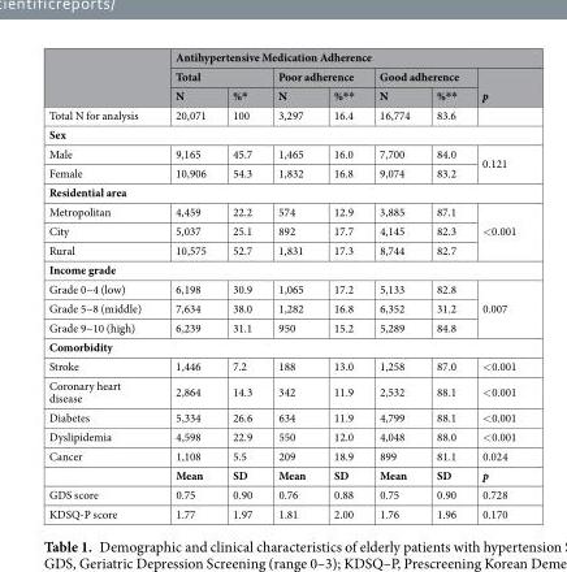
<table><thead><tr><td rowspan="3"></td><td colspan="7">Antihypertensive Medication Adherence</td></tr><tr><td colspan="2">Total</td><td colspan="2">Poor adherence</td><td colspan="2">Good adherence</td><td rowspan="2">p</td></tr><tr><td>N</td><td>%*</td><td>N</td><td>%**</td><td>N</td><td>%**</td></tr></thead><tbody><tr><td>Total N for analysis</td><td>20,071</td><td>100</td><td>3,297</td><td>16.4</td><td>16,774</td><td>83.6</td><td></td></tr><tr><td colspan="8">Sex</td></tr><tr><td>Male</td><td>9,165</td><td>45.7</td><td>1,465</td><td>16.0</td><td>7,700</td><td>84.0</td><td rowspan="2">0.121</td></tr><tr><td>Female</td><td>10,906</td><td>54.3</td><td>1,832</td><td>16.8</td><td>9,074</td><td>83.2</td></tr><tr><td colspan="8">Residential area</td></tr><tr><td>Metropolitan</td><td>4,459</td><td>22.2</td><td>574</td><td>12.9</td><td>3,885</td><td>87.1</td><td rowspan="3">&lt;0.001</td></tr><tr><td>City</td><td>5,037</td><td>25.1</td><td>892</td><td>17.7</td><td>4,145</td><td>82.3</td></tr><tr><td>Rural</td><td>10,575</td><td>52.7</td><td>1,831</td><td>17.3</td><td>8,744</td><td>82.7</td></tr><tr><td colspan="8">Income grade</td></tr><tr><td>Grade 0~4 (low)</td><td>6,198</td><td>30.9</td><td>1,065</td><td>17.2</td><td>5,133</td><td>82.8</td><td rowspan="3">0.007</td></tr><tr><td>Grade 5~8 (middle)</td><td>7,634</td><td>38.0</td><td>1,282</td><td>16.8</td><td>6,352</td><td>31.2</td></tr><tr><td>Grade 9~10 (high)</td><td>6,239</td><td>31.1</td><td>950</td><td>15.2</td><td>5,289</td><td>84.8</td></tr><tr><td colspan="8">Comorbidity</td></tr><tr><td>Stroke</td><td>1,446</td><td>7.2</td><td>188</td><td>13.0</td><td>1,258</td><td>87.0</td><td>&lt;0.001</td></tr><tr><td>Coronary heart disease</td><td>2,864</td><td>14.3</td><td>342</td><td>11.9</td><td>2,532</td><td>88.1</td><td>&lt;0.001</td></tr><tr><td>Diabetes</td><td>5,334</td><td>26.6</td><td>634</td><td>11.9</td><td>4,799</td><td>88.1</td><td>&lt;0.001</td></tr><tr><td>Dyslipidemia</td><td>4,598</td><td>22.9</td><td>550</td><td>12.0</td><td>4,048</td><td>88.0</td><td>&lt;0.001</td></tr><tr><td rowspan="2">Cancer</td><td>1,108</td><td>5.5</td><td>209</td><td>18.9</td><td>899</td><td>81.1</td><td>0.024</td></tr><tr><td>Mean</td><td>SD</td><td>Mean</td><td>SD</td><td>Mean</td><td>SD</td><td>p</td></tr><tr><td>GDS score</td><td>0.75</td><td>0.90</td><td>0.76</td><td>0.88</td><td>0.75</td><td>0.90</td><td>0.728</td></tr><tr><td>KDSQ-P score</td><td>1.77</td><td>1.97</td><td>1.81</td><td>2.00</td><td>1.76</td><td>1.96</td><td>0.170</td></tr></tbody></table>